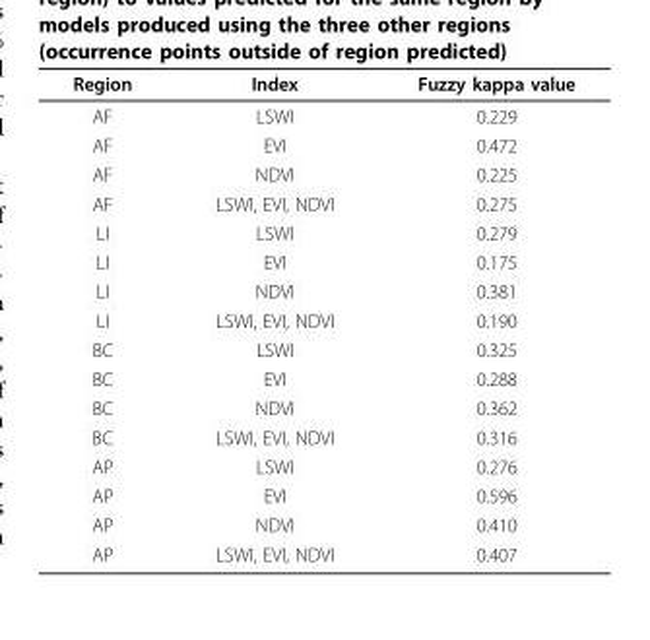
<table><thead><tr><td>Region</td><td>Index</td><td>Fuzzy kappa value</td></tr></thead><tbody><tr><td>AF</td><td>LSWI</td><td>0.229</td></tr><tr><td>AF</td><td>EVI</td><td>0.472</td></tr><tr><td>AF</td><td>NDVI</td><td>0.225</td></tr><tr><td>AF</td><td>LSWI, EVI, NDVI</td><td>0.275</td></tr><tr><td>LI</td><td>LSWI</td><td>0.279</td></tr><tr><td>LI</td><td>EVI</td><td>0.175</td></tr><tr><td>LI</td><td>NDVI</td><td>0.381</td></tr><tr><td>LI</td><td>LSWI, EVI, NDVI</td><td>0.190</td></tr><tr><td>BC</td><td>LSWI</td><td>0.325</td></tr><tr><td>BC</td><td>EVI</td><td>0.288</td></tr><tr><td>BC</td><td>NDVI</td><td>0.362</td></tr><tr><td>BC</td><td>LSWI, EVI, NDVI</td><td>0.316</td></tr><tr><td>AP</td><td>LSWI</td><td>0.276</td></tr><tr><td>AP</td><td>EVI</td><td>0.596</td></tr><tr><td>AP</td><td>NDVI</td><td>0.410</td></tr><tr><td>AP</td><td>LSWI, EVI, NDVI</td><td>0.407</td></tr></tbody></table>